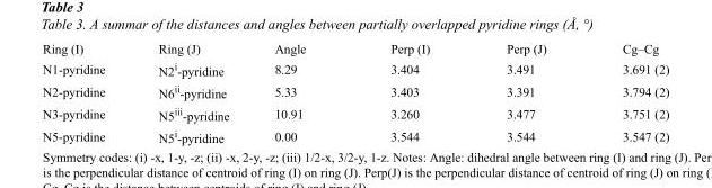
<table><thead><tr><td>Ring (I)</td><td>Ring (J)</td><td>Angle</td><td>Perp (I)</td><td>Perp (J)</td><td>Cg–Cg</td></tr></thead><tbody><tr><td>N1-pyridine</td><td>N2<sup>i</sup>-pyridine</td><td>8.29</td><td>3.404</td><td>3.491</td><td>3.691 (2)</td></tr><tr><td>N2-pyridine</td><td>N6<sup>ii</sup>-pyridine</td><td>5.33</td><td>3.403</td><td>3.391</td><td>3.794 (2)</td></tr><tr><td>N3-pyridine</td><td>N5<sup>iii</sup>-pyridine</td><td>10.91</td><td>3.260</td><td>3.477</td><td>3.751 (2)</td></tr><tr><td>N5-pyridine</td><td>N5<sup>i</sup>-pyridine</td><td>0.00</td><td>3.544</td><td>3.544</td><td>3.547 (2)</td></tr></tbody></table>